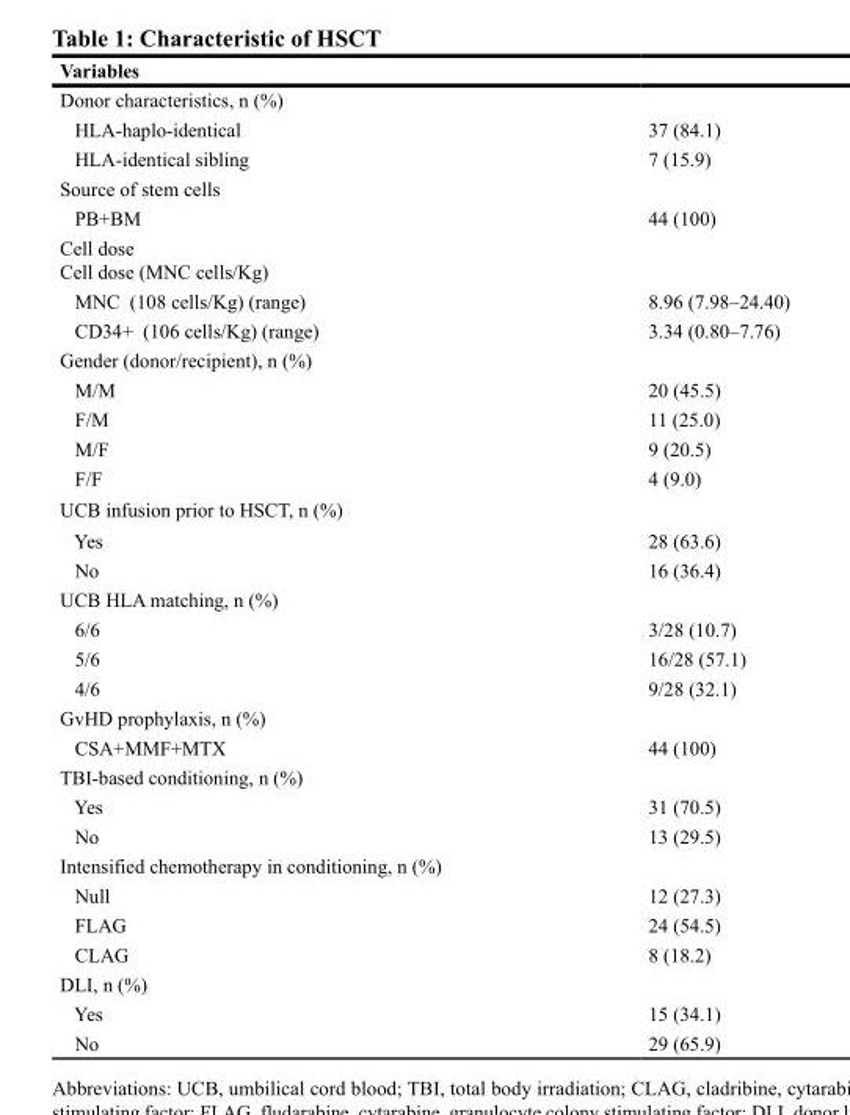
<table><thead><tr><td>Variables</td><td></td></tr></thead><tbody><tr><td colspan="2">Donor characteristics, n (%)</td></tr><tr><td>HLA-haplo-identical</td><td>37 (84.1)</td></tr><tr><td>HLA-identical sibling</td><td>7 (15.9)</td></tr><tr><td colspan="2">Source of stem cells</td></tr><tr><td>PB+BM</td><td>44 (100)</td></tr><tr><td colspan="2">Cell dose Cell dose (MNC cells/Kg)</td></tr><tr><td>MNC (108 cells/Kg) (range)</td><td>8.96 (7.98–24.40)</td></tr><tr><td>CD34+ (106 cells/Kg) (range)</td><td>3.34 (0.80–7.76)</td></tr><tr><td colspan="2">Gender (donor/recipient), n (%)</td></tr><tr><td>M/M</td><td>20 (45.5)</td></tr><tr><td>F/M</td><td>11 (25.0)</td></tr><tr><td>M/F</td><td>9 (20.5)</td></tr><tr><td>F/F</td><td>4 (9.0)</td></tr><tr><td colspan="2">UCB infusion prior to HSCT, n (%)</td></tr><tr><td>Yes</td><td>28 (63.6)</td></tr><tr><td>No</td><td>16 (36.4)</td></tr><tr><td colspan="2">UCB HLA matching, n (%)</td></tr><tr><td>6/6</td><td>3/28 (10.7)</td></tr><tr><td>5/6</td><td>16/28 (57.1)</td></tr><tr><td>4/6</td><td>9/28 (32.1)</td></tr><tr><td colspan="2">GvHD prophylaxis, n (%)</td></tr><tr><td>CSA+MMF+MTX</td><td>44 (100)</td></tr><tr><td colspan="2">TBI-based conditioning, n (%)</td></tr><tr><td>Yes</td><td>31 (70.5)</td></tr><tr><td>No</td><td>13 (29.5)</td></tr><tr><td colspan="2">Intensified chemotherapy in conditioning, n (%)</td></tr><tr><td>Null</td><td>12 (27.3)</td></tr><tr><td>FLAG</td><td>24 (54.5)</td></tr><tr><td>CLAG</td><td>8 (18.2)</td></tr><tr><td colspan="2">DLI, n (%)</td></tr><tr><td>Yes</td><td>15 (34.1)</td></tr><tr><td>No</td><td>29 (65.9)</td></tr></tbody></table>